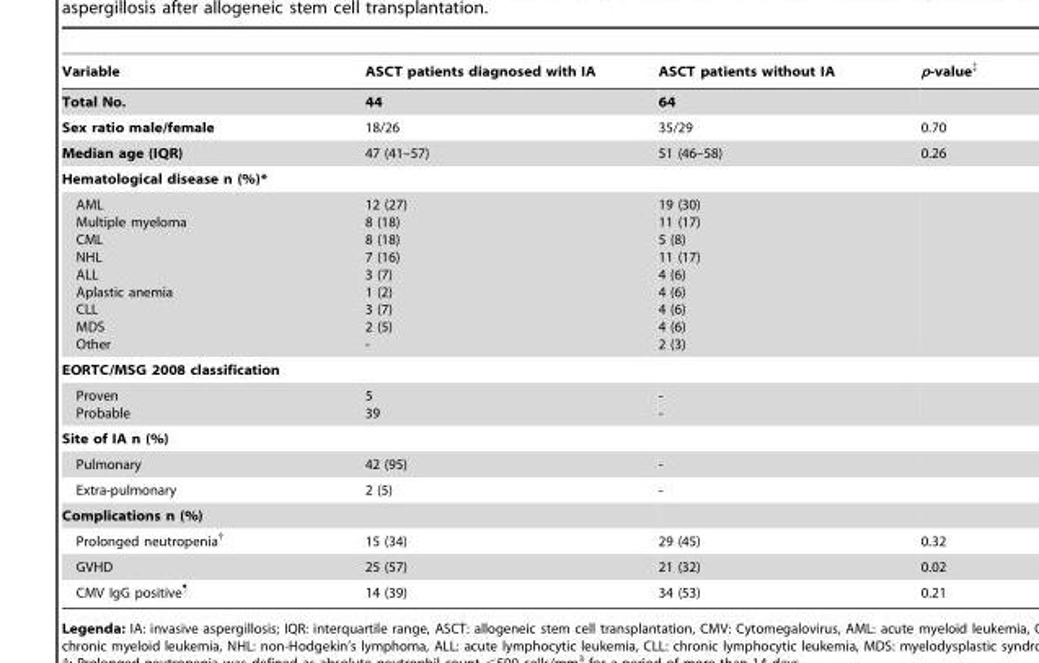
<table><thead><tr><td>Variable</td><td>ASCT patients diagnosed with IA</td><td>ASCT patients without IA</td><td>p-value‡</td></tr></thead><tbody><tr><td>Total No.</td><td>44</td><td>64</td><td></td></tr><tr><td>Sex ratio male/female</td><td>18/26</td><td>35/29</td><td>0.70</td></tr><tr><td>Median age (IQR)</td><td>47 (41–57)</td><td>51 (46–58)</td><td>0.26</td></tr><tr><td colspan="4">Hematological disease n (%)*</td></tr><tr><td>AML Multiple myeloma CML NHL ALL Aplastic anemia CLL MDS Other</td><td>12 (27) 8 (18) 8 (18) 7 (16) 3 (7) 1 (2) 3 (7) 2 (5) -</td><td>19 (30) 11 (17) 5 (8) 11 (17) 4 (6) 4 (6) 4 (6) 4 (6) 2 (3)</td><td></td></tr><tr><td colspan="4">EORTC/MSG 2008 classification</td></tr><tr><td>Proven Probable</td><td>5 39</td><td>- -</td><td></td></tr><tr><td colspan="4">Site of IA n (%)</td></tr><tr><td>Pulmonary</td><td>42 (95)</td><td>-</td><td></td></tr><tr><td>Extra-pulmonary</td><td>2 (5)</td><td>-</td><td></td></tr><tr><td colspan="4">Complications n (%)</td></tr><tr><td>Prolonged neutropenia†</td><td>15 (34)</td><td>29 (45)</td><td>0.32</td></tr><tr><td>GVHD</td><td>25 (57)</td><td>21 (32)</td><td>0.02</td></tr><tr><td>CMV IgG positive¶</td><td>14 (39)</td><td>34 (53)</td><td>0.21</td></tr></tbody></table>